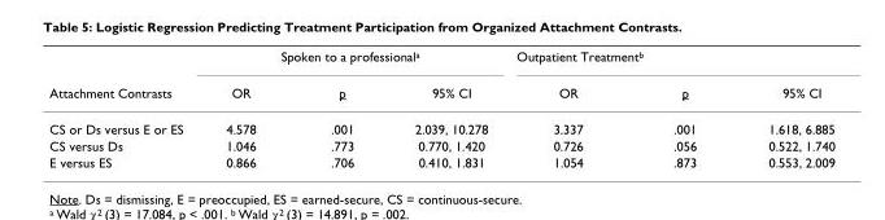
<table><thead><tr><td rowspan="2">Attachment Contrasts</td><td colspan="3">Spoken to a professional<sup>a</sup></td><td colspan="3">Outpatient Treatment<sup>b</sup></td></tr><tr><td>OR</td><td>p</td><td>95% CI</td><td>OR</td><td>p</td><td>95% CI</td></tr></thead><tbody><tr><td>CS or Ds versus E or ES</td><td>4.578</td><td>.001</td><td>2.039, 10.278</td><td>3.337</td><td>.001</td><td>1.618, 6.885</td></tr><tr><td>CS versus Ds</td><td>1.046</td><td>.773</td><td>0.770, 1.420</td><td>0.726</td><td>.056</td><td>0.522, 1.740</td></tr><tr><td>E versus ES</td><td>0.866</td><td>.706</td><td>0.410, 1.831</td><td>1.054</td><td>.873</td><td>0.553, 2.009</td></tr></tbody></table>